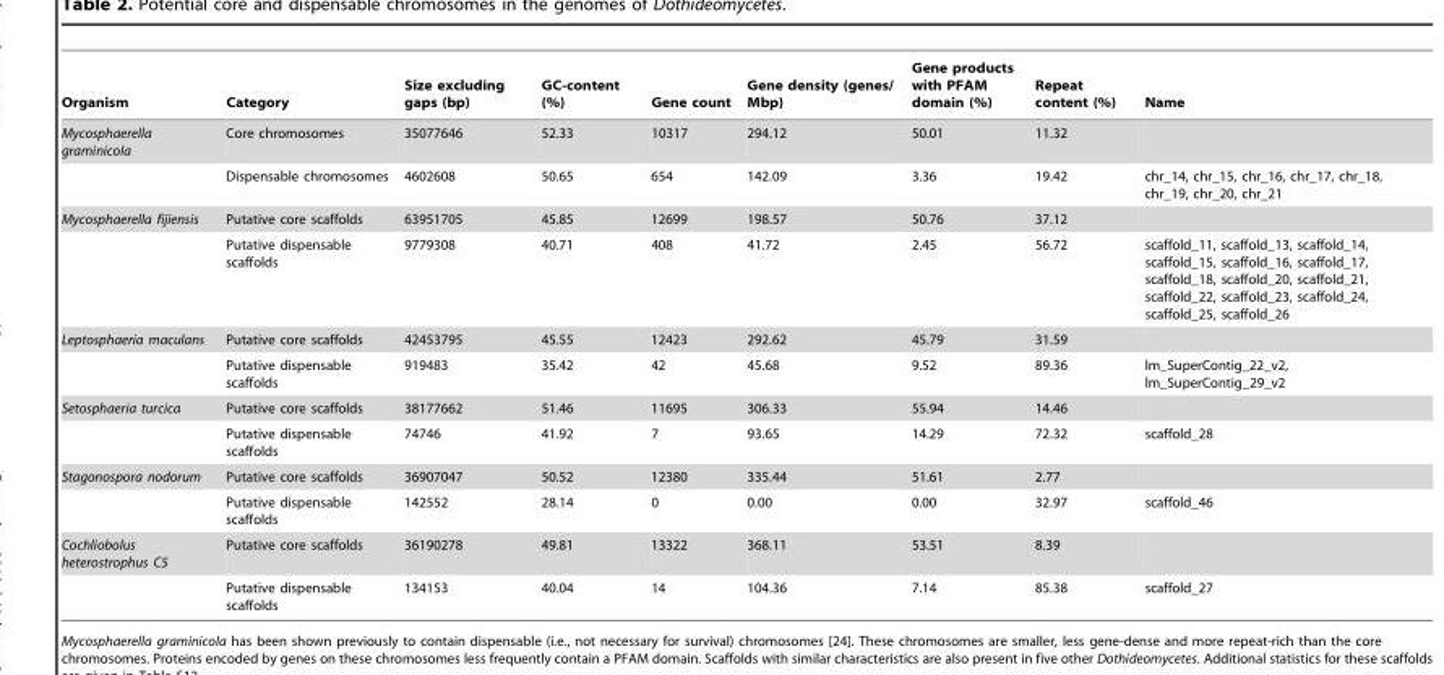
<table><thead><tr><td>Organism</td><td>Category</td><td>Size excluding gaps (bp)</td><td>GC-content (%)</td><td>Gene count</td><td>Gene density (genes/ Mbp)</td><td>Gene products with PFAM domain (%)</td><td>Repeat content (%)</td><td>Name</td></tr></thead><tbody><tr><td rowspan="2">Mycosphaerella graminicola</td><td>Core chromosomes</td><td>35077646</td><td>52.33</td><td>10317</td><td>294.12</td><td>50.01</td><td>11.32</td><td></td></tr><tr><td>Dispensable chromosomes</td><td>4602608</td><td>50.65</td><td>654</td><td>142.09</td><td>3.36</td><td>19.42</td><td>chr_14, chr_15, chr_16, chr_17, chr_18, chr_19, chr_20, chr_21</td></tr><tr><td rowspan="2">Mycosphaerella fijiensis</td><td>Putative core scaffolds</td><td>63951705</td><td>45.85</td><td>12699</td><td>198.57</td><td>50.76</td><td>37.12</td><td></td></tr><tr><td>Putative dispensable scaffolds</td><td>9779308</td><td>40.71</td><td>408</td><td>41.72</td><td>2.45</td><td>56.72</td><td>scaffold_11, scaffold_13, scaffold_14, scaffold_15, scaffold_16, scaffold_17, scaffold_18, scaffold_20, scaffold_21, scaffold_22, scaffold_23, scaffold_24, scaffold_25, scaffold_26</td></tr><tr><td rowspan="2">Leptosphaeria maculans</td><td>Putative core scaffolds</td><td>42453795</td><td>45.55</td><td>12423</td><td>292.62</td><td>45.79</td><td>31.59</td><td></td></tr><tr><td>Putative dispensable scaffolds</td><td>919483</td><td>35.42</td><td>42</td><td>45.68</td><td>9.52</td><td>89.36</td><td>lm_SuperContig_22_v2, lm_SuperContig_29_v2</td></tr><tr><td rowspan="2">Setosphaeria turcica</td><td>Putative core scaffolds</td><td>38177662</td><td>51.46</td><td>11695</td><td>306.33</td><td>55.94</td><td>14.46</td><td></td></tr><tr><td>Putative dispensable scaffolds</td><td>74746</td><td>41.92</td><td>7</td><td>93.65</td><td>14.29</td><td>72.32</td><td>scaffold_28</td></tr><tr><td rowspan="2">Stagonospora nodorum</td><td>Putative core scaffolds</td><td>36907047</td><td>50.52</td><td>12380</td><td>335.44</td><td>51.61</td><td>2.77</td><td></td></tr><tr><td>Putative dispensable scaffolds</td><td>142552</td><td>28.14</td><td>0</td><td>0.00</td><td>0.00</td><td>32.97</td><td>scaffold_46</td></tr><tr><td rowspan="2">Cochliobolus heterostrophus C5</td><td>Putative core scaffolds</td><td>36190278</td><td>49.81</td><td>13322</td><td>368.11</td><td>53.51</td><td>8.39</td><td></td></tr><tr><td>Putative dispensable scaffolds</td><td>134153</td><td>40.04</td><td>14</td><td>104.36</td><td>7.14</td><td>85.38</td><td>scaffold_27</td></tr></tbody></table>